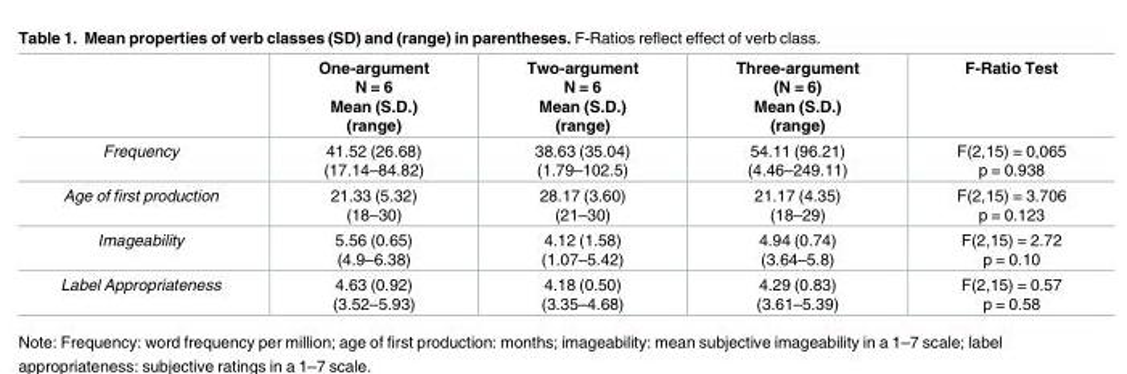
<table><thead><tr><td></td><td>One-argument N = 6 Mean (S.D.) (range)</td><td>Two-argument N = 6 Mean (S.D.) (range)</td><td>Three-argument (N = 6) Mean (S.D.) (range)</td><td>F-Ratio Test</td></tr></thead><tbody><tr><td>Frequency</td><td>41.52 (26.68) (17.14–84.82)</td><td>38.63 (35.04) (1.79–102.5)</td><td>54.11 (96.21) (4.46–249.11)</td><td>F(2,15) = 0,065 p = 0.938</td></tr><tr><td>Age of first production</td><td>21.33 (5.32) (18–30)</td><td>28.17 (3.60) (21–30)</td><td>21.17 (4.35) (18–29)</td><td>F(2,15) = 3.706 p = 0.123</td></tr><tr><td>Imageability</td><td>5.56 (0.65) (4.9–6.38)</td><td>4.12 (1.58) (1.07–5.42)</td><td>4.94 (0.74) (3.64–5.8)</td><td>F(2,15) = 2.72 p = 0.10</td></tr><tr><td>Label Appropriateness</td><td>4.63 (0.92) (3.52–5.93)</td><td>4.18 (0.50) (3.35–4.68)</td><td>4.29 (0.83) (3.61–5.39)</td><td>F(2,15) = 0.57 p = 0.58</td></tr></tbody></table>